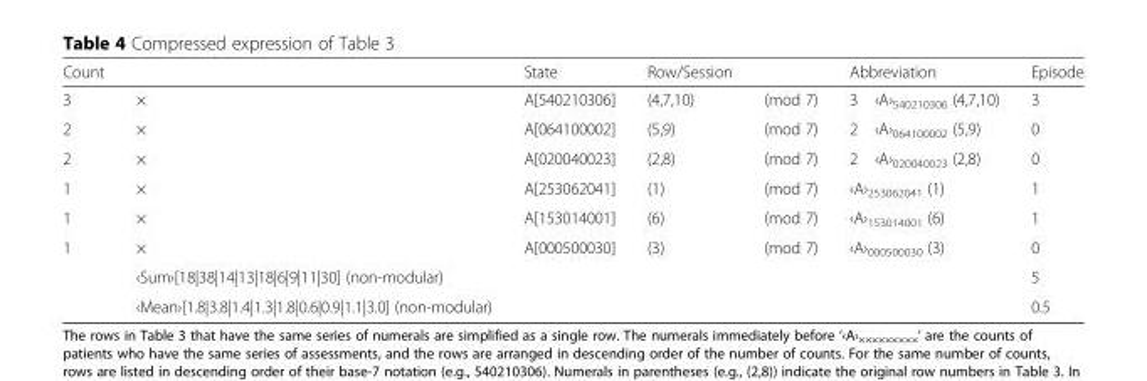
<table><thead><tr><td>Count</td><td></td><td>State</td><td>Row/Session</td><td></td><td>Abbreviation</td><td>Episode</td></tr></thead><tbody><tr><td>3</td><td>×</td><td>A[540210306]</td><td>(4,7,10)</td><td>(mod 7)</td><td>3 ‹A›540210306 (4,7,10)</td><td>3</td></tr><tr><td>2</td><td>×</td><td>A[064100002]</td><td>(5,9)</td><td>(mod 7)</td><td>2 ‹A›064100002 (5,9)</td><td>0</td></tr><tr><td>2</td><td>×</td><td>A[020040023]</td><td>(2,8)</td><td>(mod 7)</td><td>2 ‹A›020040023 (2,8)</td><td>0</td></tr><tr><td>1</td><td>×</td><td>A[253062041]</td><td>(1)</td><td>(mod 7)</td><td>‹A›<sub>253062041</sub> (1)</td><td>1</td></tr><tr><td>1</td><td>×</td><td>A[153014001]</td><td>(6)</td><td>(mod 7)</td><td>‹A›<sub>153014001</sub> (6)</td><td>1</td></tr><tr><td rowspan="3">1</td><td>×</td><td>A[000500030]</td><td>(3)</td><td>(mod 7)</td><td>‹A›<sub>000500030</sub> (3)</td><td>0</td></tr><tr><td>‹Sum›[18|38|14|13|18|6|9|11|30] (non-modular)</td><td></td><td></td><td></td><td></td><td>5</td></tr><tr><td>‹Mean›[1.8|3.8|1.4|1.3|1.8|0.6|0.9|1.1|3.0] (non-modular)</td><td></td><td></td><td></td><td></td><td>0.5</td></tr></tbody></table>